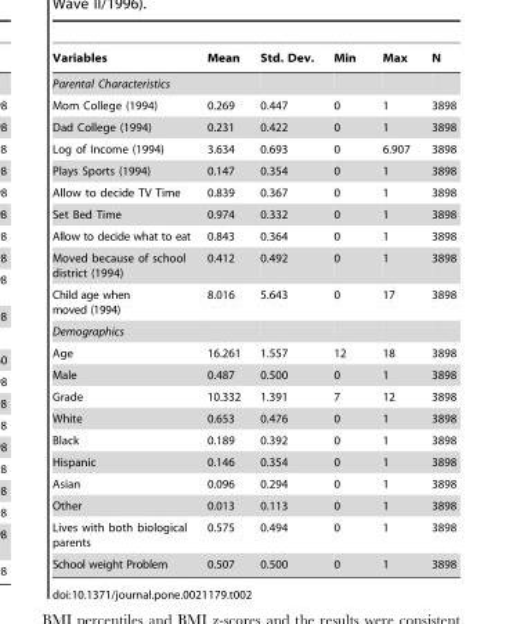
<table><thead><tr><td>Variables</td><td>Mean</td><td>Std. Dev.</td><td>Min</td><td>Max</td><td>N</td></tr></thead><tbody><tr><td colspan="6">Parental Characteristics</td></tr><tr><td>Mom College (1994)</td><td>0.269</td><td>0.447</td><td>0</td><td>1</td><td>3898</td></tr><tr><td>Dad College (1994)</td><td>0.231</td><td>0.422</td><td>0</td><td>1</td><td>3898</td></tr><tr><td>Log of Income (1994)</td><td>3.634</td><td>0.693</td><td>0</td><td>6.907</td><td>3898</td></tr><tr><td>Plays Sports (1994)</td><td>0.147</td><td>0.354</td><td>0</td><td>1</td><td>3898</td></tr><tr><td>Allow to decide TV Time</td><td>0.839</td><td>0.367</td><td>0</td><td>1</td><td>3898</td></tr><tr><td>Set Bed Time</td><td>0.974</td><td>0.332</td><td>0</td><td>1</td><td>3898</td></tr><tr><td>Allow to decide what to eat</td><td>0.843</td><td>0.364</td><td>0</td><td>1</td><td>3898</td></tr><tr><td>Moved because of school district (1994)</td><td>0.412</td><td>0.492</td><td>0</td><td>1</td><td>3898</td></tr><tr><td>Child age when moved (1994)</td><td>8.016</td><td>5.643</td><td>0</td><td>17</td><td>3898</td></tr><tr><td colspan="6">Demographics</td></tr><tr><td>Age</td><td>16.261</td><td>1.557</td><td>12</td><td>18</td><td>3898</td></tr><tr><td>Male</td><td>0.487</td><td>0.500</td><td>0</td><td>1</td><td>3898</td></tr><tr><td>Grade</td><td>10.332</td><td>1.391</td><td>7</td><td>12</td><td>3898</td></tr><tr><td>White</td><td>0.653</td><td>0.476</td><td>0</td><td>1</td><td>3898</td></tr><tr><td>Black</td><td>0.189</td><td>0.392</td><td>0</td><td>1</td><td>3898</td></tr><tr><td>Hispanic</td><td>0.146</td><td>0.354</td><td>0</td><td>1</td><td>3898</td></tr><tr><td>Asian</td><td>0.096</td><td>0.294</td><td>0</td><td>1</td><td>3898</td></tr><tr><td>Other</td><td>0.013</td><td>0.113</td><td>0</td><td>1</td><td>3898</td></tr><tr><td>Lives with both biological parents</td><td>0.575</td><td>0.494</td><td>0</td><td>1</td><td>3898</td></tr><tr><td>School weight Problem</td><td>0.507</td><td>0.500</td><td>0</td><td>1</td><td>3898</td></tr></tbody></table>